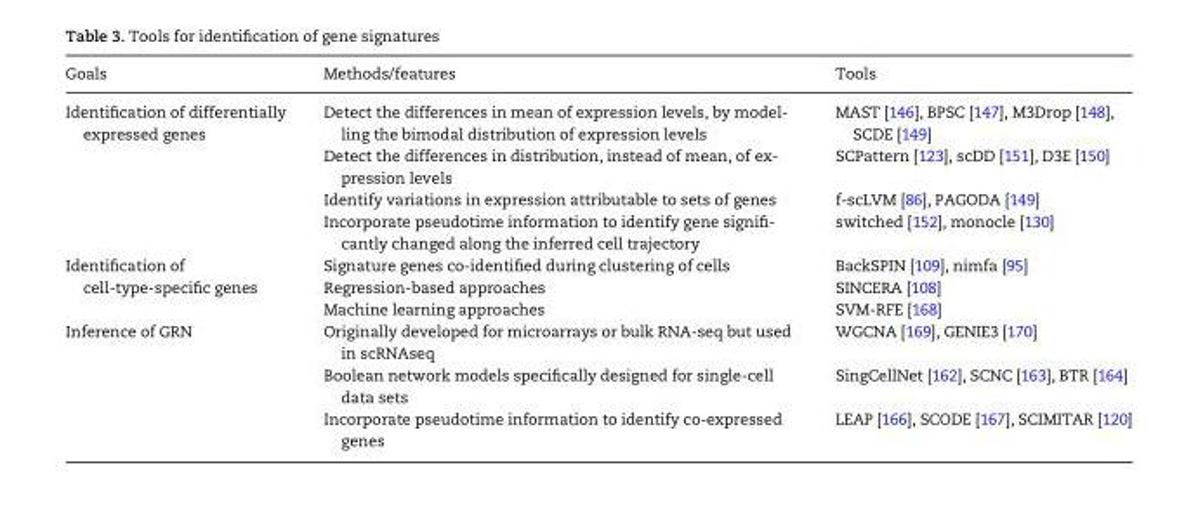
<table><thead><tr><td>Goals</td><td>Methods/features</td><td>Tools</td></tr></thead><tbody><tr><td rowspan="4">Identification of differentially expressed genes</td><td>Detect the differences in mean of expression levels, by model- ling the bimodal distribution of expression levels</td><td>MAST [146], BPSC [147], M3Drop [148], SCDE [149]</td></tr><tr><td>Detect the differences in distribution, instead of mean, of ex- pression levels</td><td>SCPattern [123], scDD [151], D3E [150]</td></tr><tr><td>Identify variations in expression attributable to sets of genes</td><td>f-scLVM [86], PAGODA [149]</td></tr><tr><td>Incorporate pseudotime information to identify gene signifi- cantly changed along the inferred cell trajectory</td><td>switched [152], monocle [130]</td></tr><tr><td rowspan="3">Identification of cell-type-specific genes</td><td>Signature genes co-identified during clustering of cells</td><td>BackSPIN [109], nimfa [95]</td></tr><tr><td>Regression-based approaches</td><td>SINCERA [108]</td></tr><tr><td>Machine learning approaches</td><td>SVM-RFE [168]</td></tr><tr><td rowspan="3">Inference of GRN</td><td>Originally developed for microarrays or bulk RNA-seq but used in scRNAseq</td><td>WGCNA [169], GENIE3 [170]</td></tr><tr><td>Boolean network models specifically designed for single-cell data sets</td><td>SingCellNet [162], SCNC [163], BTR [164]</td></tr><tr><td>Incorporate pseudotime information to identify co-expressed genes</td><td>LEAP [166], SCODE [167], SCIMITAR [120]</td></tr></tbody></table>